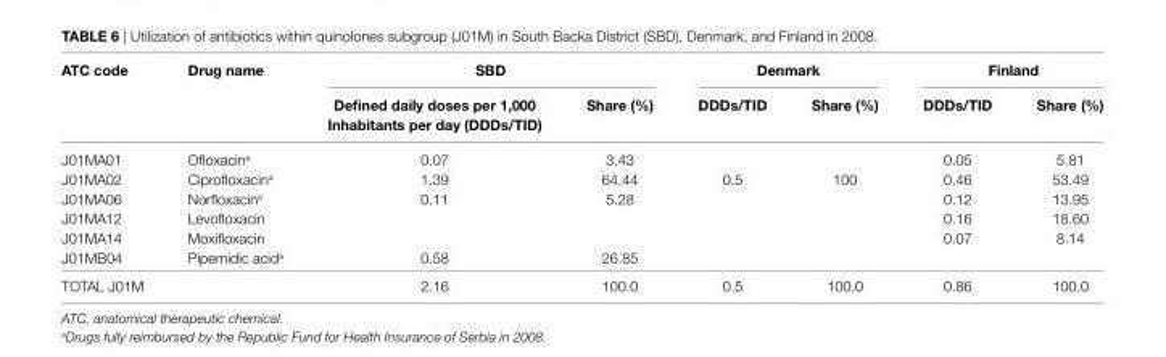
<table><thead><tr><td rowspan="2">aTc code</td><td rowspan="2">Drug name</td><td colspan="2">sBD</td><td colspan="2">Denmark</td><td colspan="2">Finland</td></tr><tr><td>Defined daily doses per 1,000 inhabitants per day (DDDs/TiD)</td><td>share (%)</td><td>DDDs/TiD</td><td>share (%)</td><td>DDDs/TiD</td><td>share (%)</td></tr></thead><tbody><tr><td>J01MA01</td><td>Ofloxacin<sup>a</sup></td><td>0.07</td><td>3.43</td><td></td><td></td><td>0.05</td><td>5.81</td></tr><tr><td>J01MA02</td><td>Ciprofloxacin<sup>a</sup></td><td>1.39</td><td>64.44</td><td>0.5</td><td>100</td><td>0.46</td><td>53.49</td></tr><tr><td>J01MA06</td><td>Norfloxacin<sup>a</sup></td><td>0.11</td><td>5.28</td><td></td><td></td><td>0.12</td><td>13.95</td></tr><tr><td>J01MA12</td><td>Levofloxacin</td><td></td><td></td><td></td><td></td><td>0.16</td><td>18.60</td></tr><tr><td>J01MA14</td><td>Moxifloxacin</td><td></td><td></td><td></td><td></td><td>0.07</td><td>8.14</td></tr><tr><td>J01MB04</td><td>Pipemidic acid<sup>a</sup></td><td>0.58</td><td>26.85</td><td></td><td></td><td></td><td></td></tr><tr><td>TOTAL J01M</td><td></td><td>2.16</td><td>100.0</td><td>0.5</td><td>100.0</td><td>0.86</td><td>100.0</td></tr></tbody></table>